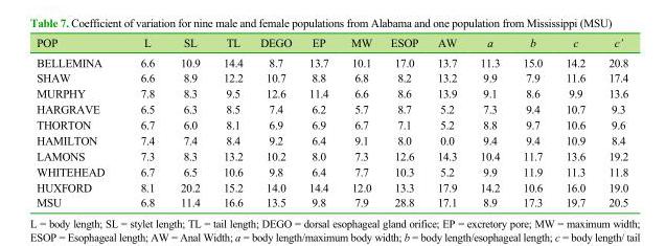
<table><thead><tr><td>POP</td><td>L</td><td>SL</td><td>TL</td><td>DEGO</td><td>EP</td><td>MW</td><td>ESOP</td><td>AW</td><td>a</td><td>b</td><td>c</td><td>c’</td></tr></thead><tbody><tr><td>BELLEMINA</td><td>6.6</td><td>10.9</td><td>14.4</td><td>8.7</td><td>13.7</td><td>10.1</td><td>17.0</td><td>13.7</td><td>11.3</td><td>15.0</td><td>14.2</td><td>20.8</td></tr><tr><td>SHAW</td><td>6.6</td><td>8.9</td><td>12.2</td><td>10.7</td><td>8.8</td><td>6.8</td><td>8.2</td><td>13.2</td><td>9.9</td><td>7.9</td><td>11.6</td><td>17.4</td></tr><tr><td>MURPHY</td><td>7.8</td><td>8.3</td><td>9.5</td><td>12.6</td><td>11.4</td><td>6.6</td><td>8.6</td><td>13.9</td><td>9.1</td><td>8.6</td><td>9.9</td><td>13.6</td></tr><tr><td>HARGRAVE</td><td>6.5</td><td>6.3</td><td>8.5</td><td>7.4</td><td>6.2</td><td>5.7</td><td>8.7</td><td>5.2</td><td>7.3</td><td>9.4</td><td>10.7</td><td>9.3</td></tr><tr><td>THORTON</td><td>6.7</td><td>6.0</td><td>8.1</td><td>6.9</td><td>6.9</td><td>6.7</td><td>7.1</td><td>5.2</td><td>8.8</td><td>9.7</td><td>10.6</td><td>9.6</td></tr><tr><td>HAMILTON</td><td>7.4</td><td>7.4</td><td>8.4</td><td>9.2</td><td>6.4</td><td>9.1</td><td>8.0</td><td>0.0</td><td>9.4</td><td>9.4</td><td>10.9</td><td>8.4</td></tr><tr><td>LAMONS</td><td>7.3</td><td>8.3</td><td>13.2</td><td>10.2</td><td>8.0</td><td>7.3</td><td>12.6</td><td>14.3</td><td>10.4</td><td>11.7</td><td>13.6</td><td>19.2</td></tr><tr><td>WHITEHEAD</td><td>6.7</td><td>6.5</td><td>10.6</td><td>9.8</td><td>6.4</td><td>7.7</td><td>10.3</td><td>5.2</td><td>9.9</td><td>11.9</td><td>11.3</td><td>11.8</td></tr><tr><td>HUXFORD</td><td>8.1</td><td>20.2</td><td>15.2</td><td>14.0</td><td>14.4</td><td>12.0</td><td>13.3</td><td>17.9</td><td>14.2</td><td>10.6</td><td>16.0</td><td>19.0</td></tr><tr><td>MSU</td><td>6.8</td><td>11.4</td><td>16.6</td><td>13.5</td><td>9.8</td><td>7.9</td><td>28.8</td><td>17.1</td><td>8.9</td><td>17.3</td><td>19.7</td><td>20.5</td></tr></tbody></table>